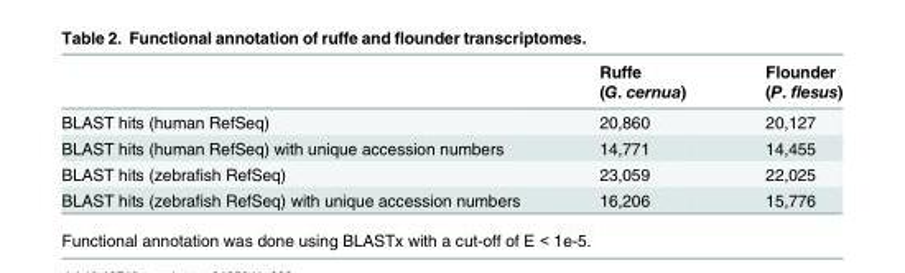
<table><thead><tr><td></td><td>Ruffe (G. cernua)</td><td>Flounder (P. flesus)</td></tr></thead><tbody><tr><td>BLAST hits (human RefSeq)</td><td>20,860</td><td>20,127</td></tr><tr><td>BLAST hits (human RefSeq) with unique accession numbers</td><td>14,771</td><td>14,455</td></tr><tr><td>BLAST hits (zebrafish RefSeq)</td><td>23,059</td><td>22,025</td></tr><tr><td>BLAST hits (zebrafish RefSeq) with unique accession numbers</td><td>16,206</td><td>15,776</td></tr></tbody></table>